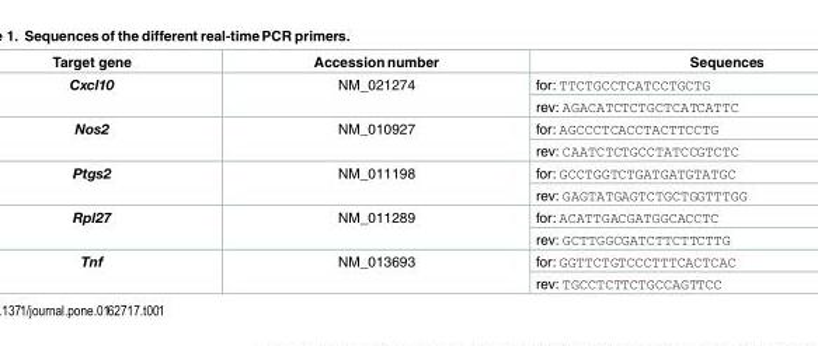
<table><thead><tr><td>Target gene</td><td>Accession number</td><td>Sequences</td></tr></thead><tbody><tr><td rowspan="2">Cxcl10</td><td rowspan="2">NM_021274</td><td>for: TTCTGCCTCATCCTGCTG</td></tr><tr><td>rev: AGACATCTCTGCTCATCATTC</td></tr><tr><td rowspan="2">Nos2</td><td rowspan="2">NM_010927</td><td>for: AGCCCTCACCTACTTCCTG</td></tr><tr><td>rev: CAATCTCTGCCTATCCGTCTC</td></tr><tr><td rowspan="2">Ptgs2</td><td rowspan="2">NM_011198</td><td>for: GCCTGGTCTGATGATGTATGC</td></tr><tr><td>rev: GAGTATGAGTCTGCTGGTTTGG</td></tr><tr><td rowspan="2">Rpl27</td><td rowspan="2">NM_011289</td><td>for: ACATTGACGATGGCACCTC</td></tr><tr><td>rev: GCTTGGCGATCTTCTTCTTG</td></tr><tr><td rowspan="2">Tnf</td><td rowspan="2">NM_013693</td><td>for: GGTTCTGTCCCTTTCACTCAC</td></tr><tr><td>rev: TGCCTCTTCTGCCAGTTCC</td></tr></tbody></table>